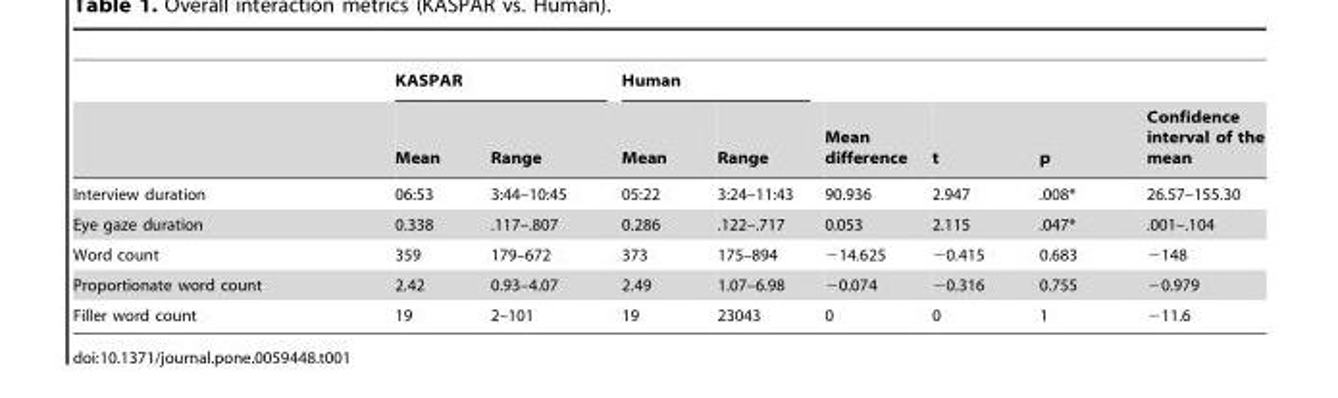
<table><thead><tr><td rowspan="2"></td><td colspan="2">KASPAR</td><td colspan="2">Human</td><td rowspan="2">Mean difference</td><td rowspan="2">t</td><td rowspan="2">p</td><td rowspan="2">Confidence interval of the mean</td></tr><tr><td>Mean</td><td>Range</td><td>Mean</td><td>Range</td></tr></thead><tbody><tr><td>Interview duration</td><td>06:53</td><td>3:44–10:45</td><td>05:22</td><td>3:24–11:43</td><td>90.936</td><td>2.947</td><td>.008*</td><td>26.57–155.30</td></tr><tr><td>Eye gaze duration</td><td>0.338</td><td>.117–.807</td><td>0.286</td><td>.122–.717</td><td>0.053</td><td>2.115</td><td>.047*</td><td>.001–.104</td></tr><tr><td>Word count</td><td>359</td><td>179–672</td><td>373</td><td>175–894</td><td>−14.625</td><td>−0.415</td><td>0.683</td><td>−148</td></tr><tr><td>Proportionate word count</td><td>2.42</td><td>0.93–4.07</td><td>2.49</td><td>1.07–6.98</td><td>−0.074</td><td>−0.316</td><td>0.755</td><td>−0.979</td></tr><tr><td>Filler word count</td><td>19</td><td>2–101</td><td>19</td><td>23043</td><td>0</td><td>0</td><td>1</td><td>−11.6</td></tr></tbody></table>